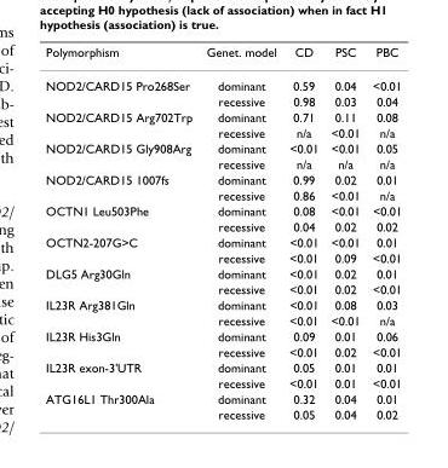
<table><thead><tr><td>Polymorphism</td><td>Genet. model</td><td>CD</td><td>PSC</td><td>PBC</td></tr></thead><tbody><tr><td rowspan="2">NOD2/CARD15 Pro268Ser</td><td>dominant</td><td>0.59</td><td>0.04</td><td>&lt;0.01</td></tr><tr><td>recessive</td><td>0.98</td><td>0.03</td><td>0.04</td></tr><tr><td rowspan="2">NOD2/CARD15 Arg702Trp</td><td>dominant</td><td>0.71</td><td>0.11</td><td>0.08</td></tr><tr><td>recessive</td><td>n/a</td><td>&lt;0.01</td><td>n/a</td></tr><tr><td rowspan="2">NOD2/CARD15 Gly908Arg</td><td>dominant</td><td>&lt;0.01</td><td>&lt;0.01</td><td>0.05</td></tr><tr><td>recessive</td><td>n/a</td><td>n/a</td><td>n/a</td></tr><tr><td rowspan="2">NOD2/CARD15 1007fs</td><td>dominant</td><td>0.99</td><td>0.02</td><td>0.01</td></tr><tr><td>recessive</td><td>0.86</td><td>&lt;0.01</td><td>n/a</td></tr><tr><td rowspan="2">OCTN1 Leu503Phe</td><td>dominant</td><td>0.08</td><td>&lt;0.01</td><td>&lt;0.01</td></tr><tr><td>recessive</td><td>0.04</td><td>0.02</td><td>0.02</td></tr><tr><td rowspan="2">OCTN2-207G&gt;C</td><td>dominant</td><td>&lt;0.01</td><td>&lt;0.01</td><td>0.01</td></tr><tr><td>recessive</td><td>&lt;0.01</td><td>0.09</td><td>&lt;0.01</td></tr><tr><td rowspan="2">DLG5 Arg30Gln</td><td>dominant</td><td>&lt;0.01</td><td>0.02</td><td>0.01</td></tr><tr><td>recessive</td><td>&lt;0.01</td><td>0.02</td><td>&lt;0.01</td></tr><tr><td rowspan="2">IL23R Arg381Gln</td><td>dominant</td><td>&lt;0.01</td><td>0.08</td><td>0.03</td></tr><tr><td>recessive</td><td>&lt;0.01</td><td>&lt;0.01</td><td>n/a</td></tr><tr><td rowspan="2">IL23R His3Gln</td><td>dominant</td><td>0.09</td><td>0.01</td><td>0.06</td></tr><tr><td>recessive</td><td>&lt;0.01</td><td>0.02</td><td>&lt;0.01</td></tr><tr><td rowspan="2">IL23R exon-3&#x27;UTR</td><td>dominant</td><td>0.05</td><td>0.01</td><td>0.01</td></tr><tr><td>recessive</td><td>&lt;0.01</td><td>0.01</td><td>&lt;0.01</td></tr><tr><td rowspan="2">ATG16L1 Thr300Ala</td><td>dominant</td><td>0.32</td><td>0.04</td><td>0.01</td></tr><tr><td>recessive</td><td>0.05</td><td>0.04</td><td>0.02</td></tr></tbody></table>